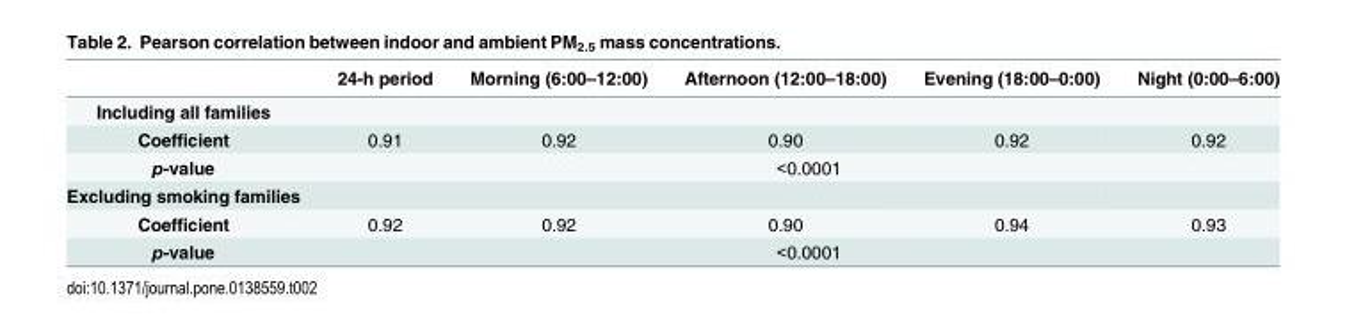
<table><thead><tr><td></td><td>24-h period</td><td>Morning (6:00–12:00)</td><td>Afternoon (12:00–18:00)</td><td>Evening (18:00–0:00)</td><td>Night (0:00–6:00)</td></tr></thead><tbody><tr><td colspan="6">Including all families</td></tr><tr><td>Coefficient</td><td>0.91</td><td>0.92</td><td>0.90</td><td>0.92</td><td>0.92</td></tr><tr><td>p-value</td><td colspan="5">&lt;0.0001</td></tr><tr><td colspan="6">Excluding smoking families</td></tr><tr><td>Coefficient</td><td>0.92</td><td>0.92</td><td>0.90</td><td>0.94</td><td>0.93</td></tr><tr><td>p-value</td><td colspan="5">&lt;0.0001</td></tr></tbody></table>